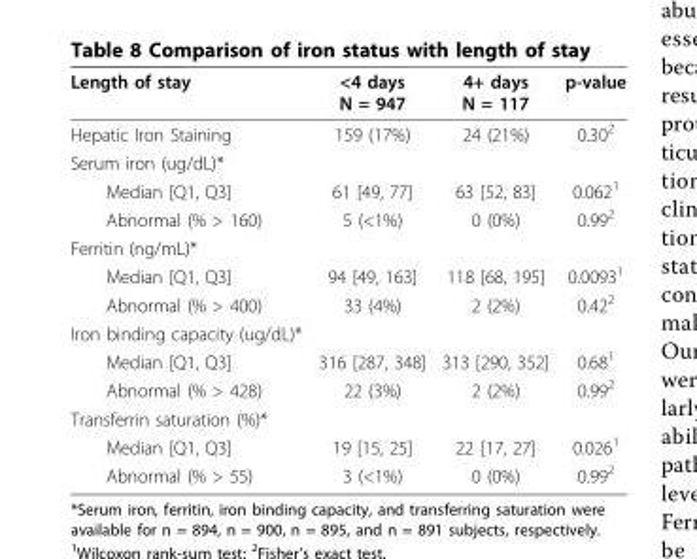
<table><thead><tr><td>Length of stay</td><td>&lt;4 days N = 947</td><td>4+ days N = 117</td><td>p-value</td></tr></thead><tbody><tr><td>Hepatic Iron Staining</td><td>159 (17%)</td><td>24 (21%)</td><td>0.30<sup>2</sup></td></tr><tr><td colspan="4">Serum iron (ug/dL)*</td></tr><tr><td>Median [Q1, Q3]</td><td>61 [49, 77]</td><td>63 [52, 83]</td><td>0.062<sup>1</sup></td></tr><tr><td>Abnormal (% &gt; 160)</td><td>5 (&lt;1%)</td><td>0 (0%)</td><td>0.99<sup>2</sup></td></tr><tr><td colspan="4">Ferritin (ng/mL)*</td></tr><tr><td>Median [Q1, Q3]</td><td>94 [49, 163]</td><td>118 [68, 195]</td><td>0.0093<sup>1</sup></td></tr><tr><td>Abnormal (% &gt; 400)</td><td>33 (4%)</td><td>2 (2%)</td><td>0.42<sup>2</sup></td></tr><tr><td colspan="4">Iron binding capacity (ug/dL)*</td></tr><tr><td>Median [Q1, Q3]</td><td>316 [287, 348]</td><td>313 [290, 352]</td><td>0.68<sup>1</sup></td></tr><tr><td>Abnormal (% &gt; 428)</td><td>22 (3%)</td><td>2 (2%)</td><td>0.99<sup>2</sup></td></tr><tr><td colspan="4">Transferrin saturation (%)*</td></tr><tr><td>Median [Q1, Q3]</td><td>19 [15, 25]</td><td>22 [17, 27]</td><td>0.026<sup>1</sup></td></tr><tr><td>Abnormal (% &gt; 55)</td><td>3 (&lt;1%)</td><td>0 (0%)</td><td>0.99<sup>2</sup></td></tr></tbody></table>